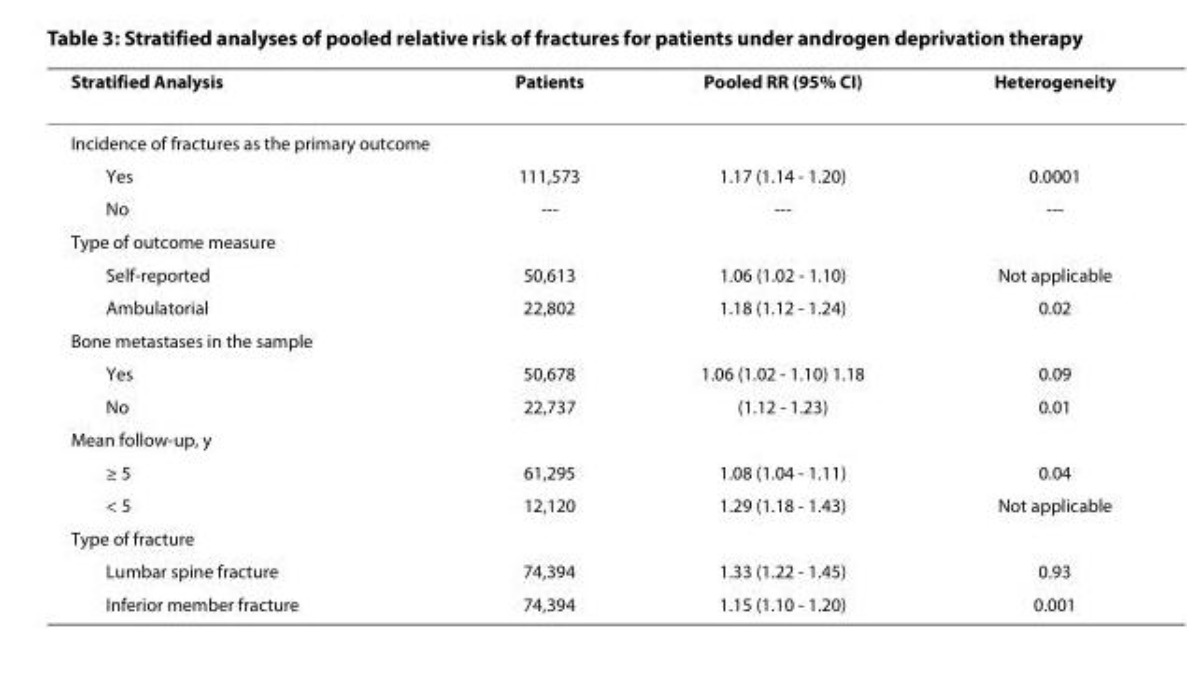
<table><thead><tr><td>Stratified Analysis</td><td>Patients</td><td>Pooled RR (95% CI)</td><td>Heterogeneity</td></tr></thead><tbody><tr><td colspan="4">Incidence of fractures as the primary outcome</td></tr><tr><td>Yes</td><td>111,573</td><td>1.17 (1.14 - 1.20)</td><td>0.0001</td></tr><tr><td>No</td><td>---</td><td>---</td><td>---</td></tr><tr><td colspan="4">Type of outcome measure</td></tr><tr><td>Self-reported</td><td>50,613</td><td>1.06 (1.02 - 1.10)</td><td>Not applicable</td></tr><tr><td>Ambulatorial</td><td>22,802</td><td>1.18 (1.12 - 1.24)</td><td>0.02</td></tr><tr><td colspan="4">Bone metastases in the sample</td></tr><tr><td>Yes</td><td>50,678</td><td>1.06 (1.02 - 1.10) 1.18</td><td>0.09</td></tr><tr><td>No</td><td>22,737</td><td>(1.12 - 1.23)</td><td>0.01</td></tr><tr><td colspan="4">Mean follow-up, y</td></tr><tr><td>≥ 5</td><td>61,295</td><td>1.08 (1.04 - 1.11)</td><td>0.04</td></tr><tr><td>&lt; 5</td><td>12,120</td><td>1.29 (1.18 - 1.43)</td><td>Not applicable</td></tr><tr><td colspan="4">Type of fracture</td></tr><tr><td>Lumbar spine fracture</td><td>74,394</td><td>1.33 (1.22 - 1.45)</td><td>0.93</td></tr><tr><td>Inferior member fracture</td><td>74,394</td><td>1.15 (1.10 - 1.20)</td><td>0.001</td></tr></tbody></table>